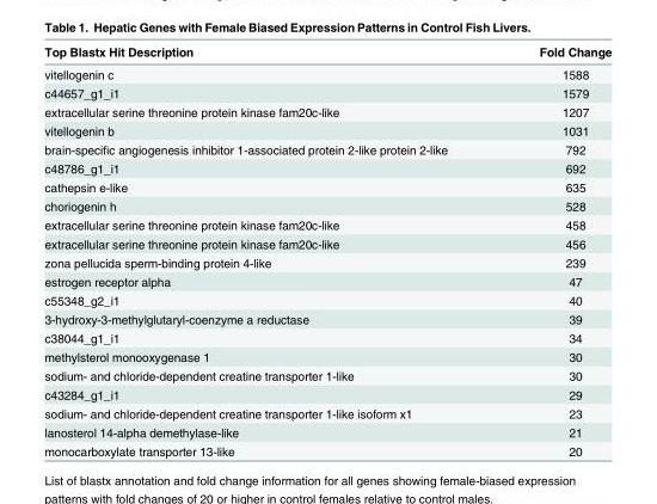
<table><thead><tr><td>Top Blastx Hit Description</td><td>Fold Change</td></tr></thead><tbody><tr><td>vitellogenin c</td><td>1588</td></tr><tr><td>c44657_g1_i1</td><td>1579</td></tr><tr><td>extracellular serine threonine protein kinase fam20c-like</td><td>1207</td></tr><tr><td>vitellogenin b</td><td>1031</td></tr><tr><td>brain-specific angiogenesis inhibitor 1-associated protein 2-like protein 2-like</td><td>792</td></tr><tr><td>c48786_g1_i1</td><td>692</td></tr><tr><td>cathepsin e-like</td><td>635</td></tr><tr><td>choriogenin h</td><td>528</td></tr><tr><td>extracellular serine threonine protein kinase fam20c-like</td><td>458</td></tr><tr><td>extracellular serine threonine protein kinase fam20c-like</td><td>456</td></tr><tr><td>zona pellucida sperm-binding protein 4-like</td><td>239</td></tr><tr><td>estrogen receptor alpha</td><td>47</td></tr><tr><td>c55348_g2_i1</td><td>40</td></tr><tr><td>3-hydroxy-3-methylglutaryl-coenzyme a reductase</td><td>39</td></tr><tr><td>c38044_g1_i1</td><td>34</td></tr><tr><td>methylsterol monooxygenase 1</td><td>30</td></tr><tr><td>sodium- and chloride-dependent creatine transporter 1-like</td><td>30</td></tr><tr><td>c43284_g1_i1</td><td>29</td></tr><tr><td>sodium- and chloride-dependent creatine transporter 1-like isoform x1</td><td>23</td></tr><tr><td>lanosterol 14-alpha demethylase-like</td><td>21</td></tr><tr><td>monocarboxylate transporter 13-like</td><td>20</td></tr></tbody></table>